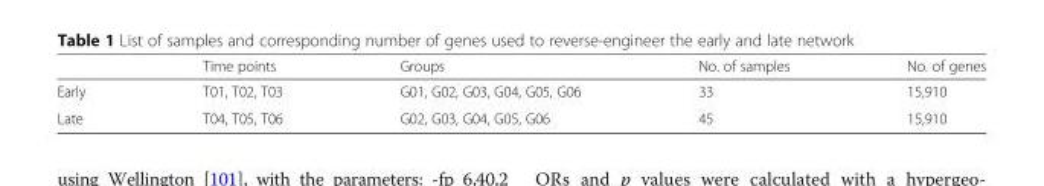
<table><thead><tr><td></td><td>Time points</td><td>Groups</td><td>No. of samples</td><td>No. of genes</td></tr></thead><tbody><tr><td>Early</td><td>T01, T02, T03</td><td>G01, G02, G03, G04, G05, G06</td><td>33</td><td>15,910</td></tr><tr><td>Late</td><td>T04, T05, T06</td><td>G02, G03, G04, G05, G06</td><td>45</td><td>15,910</td></tr></tbody></table>